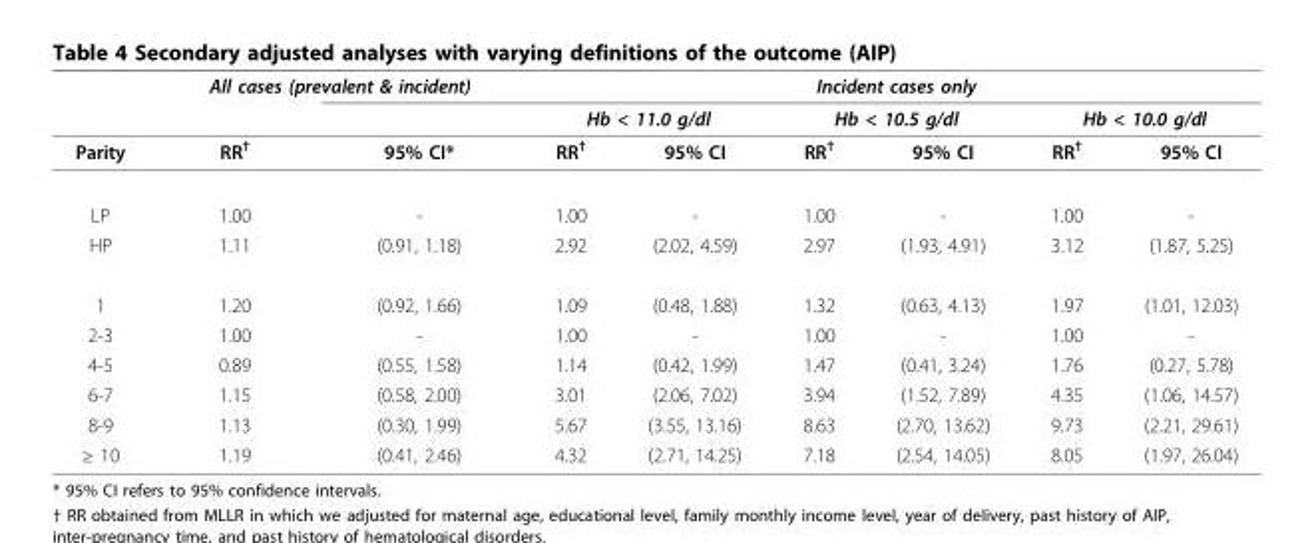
<table><thead><tr><td rowspan="3">Parity</td><td colspan="2">All cases (prevalent &amp; incident)</td><td colspan="6">Incident cases only</td></tr><tr><td rowspan="2">RR<sup>†</sup></td><td rowspan="2">95% CI*</td><td colspan="2">Hb &lt; 11.0 g/dl</td><td colspan="2">Hb &lt; 10.5 g/dl</td><td colspan="2">Hb &lt; 10.0 g/dl</td></tr><tr><td>RR<sup>†</sup></td><td>95% CI</td><td>RR<sup>†</sup></td><td>95% CI</td><td>RR<sup>†</sup></td><td>95% CI</td></tr></thead><tbody><tr><td>LP</td><td>1.00</td><td>-</td><td>1.00</td><td>-</td><td>1.00</td><td>-</td><td>1.00</td><td>-</td></tr><tr><td>HP</td><td>1.11</td><td>(0.91, 1.18)</td><td>2.92</td><td>(2.02, 4.59)</td><td>2.97</td><td>(1.93, 4.91)</td><td>3.12</td><td>(1.87, 5.25)</td></tr><tr><td>1</td><td>1.20</td><td>(0.92, 1.66)</td><td>1.09</td><td>(0.48, 1.88)</td><td>1.32</td><td>(0.63, 4.13)</td><td>1.97</td><td>(1.01, 12.03)</td></tr><tr><td>2-3</td><td>1.00</td><td>-</td><td>1.00</td><td>-</td><td>1.00</td><td>-</td><td>1.00</td><td>-</td></tr><tr><td>4-5</td><td>0.89</td><td>(0.55, 1.58)</td><td>1.14</td><td>(0.42, 1.99)</td><td>1.47</td><td>(0.41, 3.24)</td><td>1.76</td><td>(0.27, 5.78)</td></tr><tr><td>6-7</td><td>1.15</td><td>(0.58, 2.00)</td><td>3.01</td><td>(2.06, 7.02)</td><td>3.94</td><td>(1.52, 7.89)</td><td>4.35</td><td>(1.06, 14.57)</td></tr><tr><td>8-9</td><td>1.13</td><td>(0.30, 1.99)</td><td>5.67</td><td>(3.55, 13.16)</td><td>8.63</td><td>(2.70, 13.62)</td><td>9.73</td><td>(2.21, 29.61)</td></tr><tr><td>≥ 10</td><td>1.19</td><td>(0.41, 2.46)</td><td>4.32</td><td>(2.71, 14.25)</td><td>7.18</td><td>(2.54, 14.05)</td><td>8.05</td><td>(1.97, 26.04)</td></tr></tbody></table>